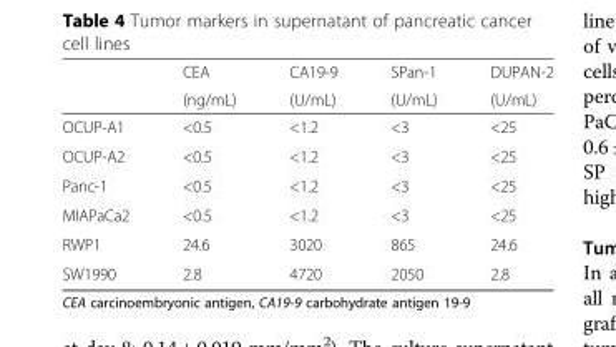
<table><thead><tr><td rowspan="2"></td><td rowspan="2">CEA (ng/mL)</td><td rowspan="2">CA19-9 (U/mL)</td><td rowspan="2">SPan-1 (U/mL)</td><td rowspan="2">DUPAN-2 (U/mL)</td></tr><tr></tr></thead><tbody><tr><td>OCUP-A1</td><td>&lt;0.5</td><td>&lt;1.2</td><td>&lt;3</td><td>&lt;25</td></tr><tr><td>OCUP-A2</td><td>&lt;0.5</td><td>&lt;1.2</td><td>&lt;3</td><td>&lt;25</td></tr><tr><td>Panc-1</td><td>&lt;0.5</td><td>&lt;1.2</td><td>&lt;3</td><td>&lt;25</td></tr><tr><td>MIAPaCa2</td><td>&lt;0.5</td><td>&lt;1.2</td><td>&lt;3</td><td>&lt;25</td></tr><tr><td>RWP1</td><td>24.6</td><td>3020</td><td>865</td><td>24.6</td></tr><tr><td>SW1990</td><td>2.8</td><td>4720</td><td>2050</td><td>2.8</td></tr></tbody></table>